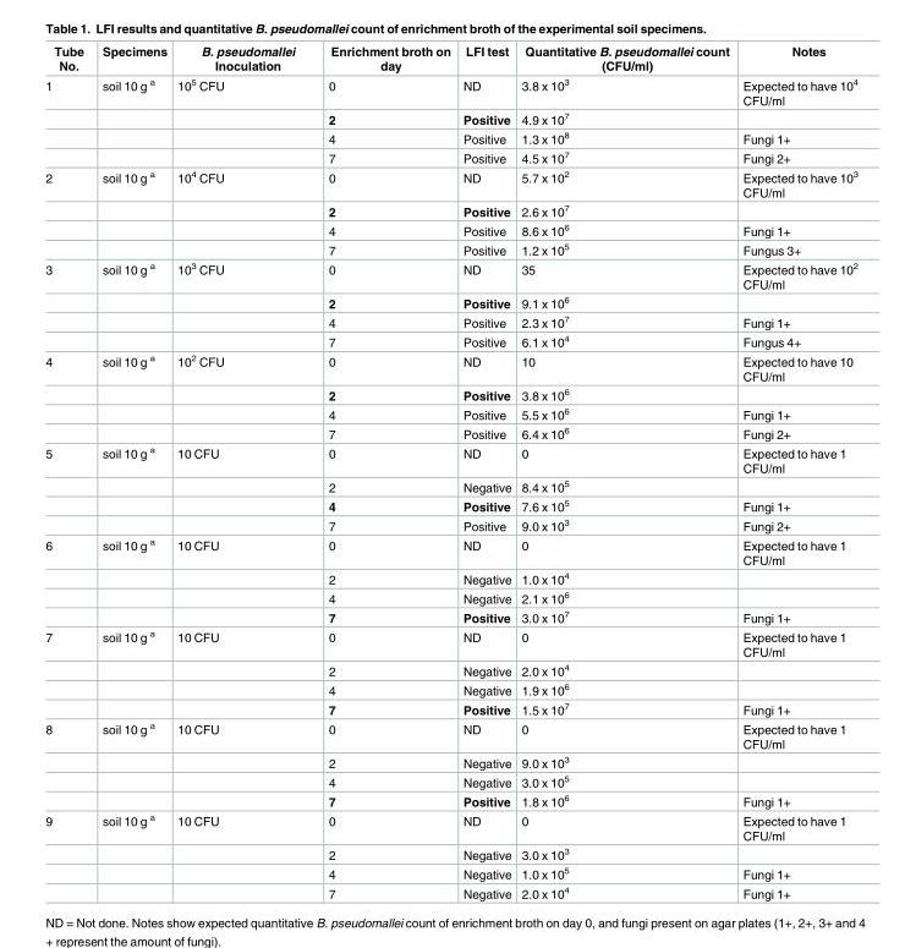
<table><thead><tr><td>Tube No.</td><td>Specimens</td><td>B. pseudomallei Inoculation</td><td>Enrichment broth on day</td><td>LFI test</td><td>Quantitative B. pseudomallei count (CFU/ml)</td><td>Notes</td></tr></thead><tbody><tr><td rowspan="4">1</td><td>soil 10 g <sup>a</sup></td><td>10<sup>5</sup> CFU</td><td>0</td><td>ND</td><td>3.8 x 10<sup>3</sup></td><td>Expected to have 10<sup>4</sup> CFU/ml</td></tr><tr><td></td><td></td><td>2</td><td>Positive</td><td>4.9 x 10<sup>7</sup></td><td></td></tr><tr><td></td><td></td><td>4</td><td>Positive</td><td>1.3 x 10<sup>8</sup></td><td>Fungi 1+</td></tr><tr><td></td><td></td><td>7</td><td>Positive</td><td>4.5 x 10<sup>7</sup></td><td>Fungi 2+</td></tr><tr><td rowspan="4">2</td><td>soil 10 g <sup>a</sup></td><td>10<sup>4</sup> CFU</td><td>0</td><td>ND</td><td>5.7 x 10<sup>2</sup></td><td>Expected to have 10<sup>3</sup> CFU/ml</td></tr><tr><td></td><td></td><td>2</td><td>Positive</td><td>2.6 x 10<sup>7</sup></td><td></td></tr><tr><td></td><td></td><td>4</td><td>Positive</td><td>8.6 x 10<sup>6</sup></td><td>Fungi 1+</td></tr><tr><td></td><td></td><td>7</td><td>Positive</td><td>1.2 x 10<sup>5</sup></td><td>Fungus 3+</td></tr><tr><td rowspan="4">3</td><td>soil 10 g <sup>a</sup></td><td>10<sup>3</sup> CFU</td><td>0</td><td>ND</td><td>35</td><td>Expected to have 10<sup>2</sup> CFU/ml</td></tr><tr><td></td><td></td><td>2</td><td>Positive</td><td>9.1 x 10<sup>6</sup></td><td></td></tr><tr><td></td><td></td><td>4</td><td>Positive</td><td>2.3 x 10<sup>7</sup></td><td>Fungi 1+</td></tr><tr><td></td><td></td><td>7</td><td>Positive</td><td>6.1 x 10<sup>4</sup></td><td>Fungus 4+</td></tr><tr><td rowspan="4">4</td><td>soil 10 g <sup>a</sup></td><td>10<sup>2</sup> CFU</td><td>0</td><td>ND</td><td>10</td><td>Expected to have 10 CFU/ml</td></tr><tr><td></td><td></td><td>2</td><td>Positive</td><td>3.8 x 10<sup>6</sup></td><td></td></tr><tr><td></td><td></td><td>4</td><td>Positive</td><td>5.5 x 10<sup>6</sup></td><td>Fungi 1+</td></tr><tr><td></td><td></td><td>7</td><td>Positive</td><td>6.4 x 10<sup>6</sup></td><td>Fungi 2+</td></tr><tr><td rowspan="4">5</td><td>soil 10 g <sup>a</sup></td><td>10 CFU</td><td>0</td><td>ND</td><td>0</td><td>Expected to have 1 CFU/ml</td></tr><tr><td></td><td></td><td>2</td><td>Negative</td><td>8.4 x 10<sup>5</sup></td><td></td></tr><tr><td></td><td></td><td>4</td><td>Positive</td><td>7.6 x 10<sup>5</sup></td><td>Fungi 1+</td></tr><tr><td></td><td></td><td>7</td><td>Positive</td><td>9.0 x 10<sup>3</sup></td><td>Fungi 2+</td></tr><tr><td rowspan="4">6</td><td>soil 10 g <sup>a</sup></td><td>10 CFU</td><td>0</td><td>ND</td><td>0</td><td>Expected to have 1 CFU/ml</td></tr><tr><td></td><td></td><td>2</td><td>Negative</td><td>1.0 x 10<sup>4</sup></td><td></td></tr><tr><td></td><td></td><td>4</td><td>Negative</td><td>2.1 x 10<sup>6</sup></td><td></td></tr><tr><td></td><td></td><td>7</td><td>Positive</td><td>3.0 x 10<sup>7</sup></td><td>Fungi 1+</td></tr><tr><td rowspan="4">7</td><td>soil 10 g <sup>a</sup></td><td>10 CFU</td><td>0</td><td>ND</td><td>0</td><td>Expected to have 1 CFU/ml</td></tr><tr><td></td><td></td><td>2</td><td>Negative</td><td>2.0 x 10<sup>4</sup></td><td></td></tr><tr><td></td><td></td><td>4</td><td>Negative</td><td>1.9 x 10<sup>6</sup></td><td></td></tr><tr><td></td><td></td><td>7</td><td>Positive</td><td>1.5 x 10<sup>7</sup></td><td>Fungi 1+</td></tr><tr><td rowspan="4">8</td><td>soil 10 g <sup>a</sup></td><td>10 CFU</td><td>0</td><td>ND</td><td>0</td><td>Expected to have 1 CFU/ml</td></tr><tr><td></td><td></td><td>2</td><td>Negative</td><td>9.0 x 10<sup>3</sup></td><td></td></tr><tr><td></td><td></td><td>4</td><td>Negative</td><td>3.0 x 10<sup>5</sup></td><td></td></tr><tr><td></td><td></td><td>7</td><td>Positive</td><td>1.8 x 10<sup>6</sup></td><td>Fungi 1+</td></tr><tr><td rowspan="4">9</td><td>soil 10 g <sup>a</sup></td><td>10 CFU</td><td>0</td><td>ND</td><td>0</td><td>Expected to have 1 CFU/ml</td></tr><tr><td></td><td></td><td>2</td><td>Negative</td><td>3.0 x 10<sup>3</sup></td><td></td></tr><tr><td></td><td></td><td>4</td><td>Negative</td><td>1.0 x 10<sup>5</sup></td><td>Fungi 1+</td></tr><tr><td></td><td></td><td>7</td><td>Negative</td><td>2.0 x 10<sup>4</sup></td><td>Fungi 1+</td></tr></tbody></table>